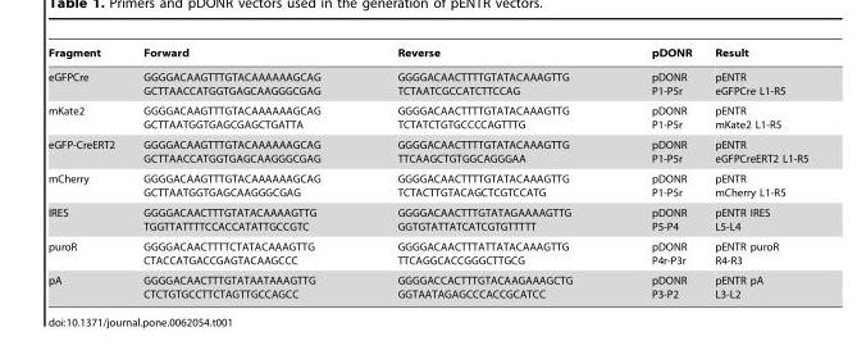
<table><thead><tr><td>Fragment</td><td>Forward</td><td>Reverse</td><td>pDONR</td><td>Result</td></tr></thead><tbody><tr><td>eGFPCre</td><td>GGGGACAAGTTTGTACAAAAAAGCAG GCTTAACCATGGTGAGCAAGGGCGAG</td><td>GGGGACAACTTTTGTATACAAAGTTG TCTAATCGCCATCTTCCAG</td><td>pDONR P1-P5r</td><td>pENTR eGFPCre L1-R5</td></tr><tr><td>mKate2</td><td>GGGGACAAGTTTGTACAAAAAAGCAG GCTTAATGGTGAGCGAGCTGATTA</td><td>GGGGACAACTTTTGTATACAAAGTTG TCTATCTGTGCCCCAGTTTG</td><td>pDONR P1-P5r</td><td>pENTR mKate2 L1-R5</td></tr><tr><td>eGFP-CreERT2</td><td>GGGGACAAGTTTGTACAAAAAAGCAG GCTTAACCATGGTGAGCAAGGGCGAG</td><td>GGGGACAACTTTTGTATACAAAGTTG TTCAAGCTGTGGCAGGGAA</td><td>pDONR P1-P5r</td><td>pENTR eGFPCreERT2 L1-R5</td></tr><tr><td>mCherry</td><td>GGGGACAAGTTTGTACAAAAAAGCAG GCTTAATGGTGAGCAAGGGCGAG</td><td>GGGGACAACTTTTGTATACAAAGTTG TCTACTTGTACAGCTCGTCCATG</td><td>pDONR P1-P5r</td><td>pENTR mCherry L1-R5</td></tr><tr><td>IRES</td><td>GGGGACAACTTTGTATACAAAAGTTG TGGTTATTTTCCACCATATTGCCGTC</td><td>GGGGACAACTTTGTATAGAAAAGTTG GGTGTATTATCATCGTGTTTTT</td><td>pDONR P5-P4</td><td>pENTR IRES L5-L4</td></tr><tr><td>puroR</td><td>GGGGACAACTTTTCTATACAAAGTTG CTACCATGACCGAGTACAAGCCC</td><td>GGGGACAACTTTATTATACAAAGTTG TTCAGGCACCGGGCTTGCG</td><td>pDONR P4r-P3r</td><td>pENTR puroR R4-R3</td></tr><tr><td>pA</td><td>GGGGACAACTTTGTATAATAAAGTTG CTCTGTGCCTTCTAGTTGCCAGCC</td><td>GGGGACCACTTTGTACAAGAAAGCTG GGTAATAGAGCCCACCGCATCC</td><td>pDONR P3-P2</td><td>pENTR pA L3-L2</td></tr></tbody></table>